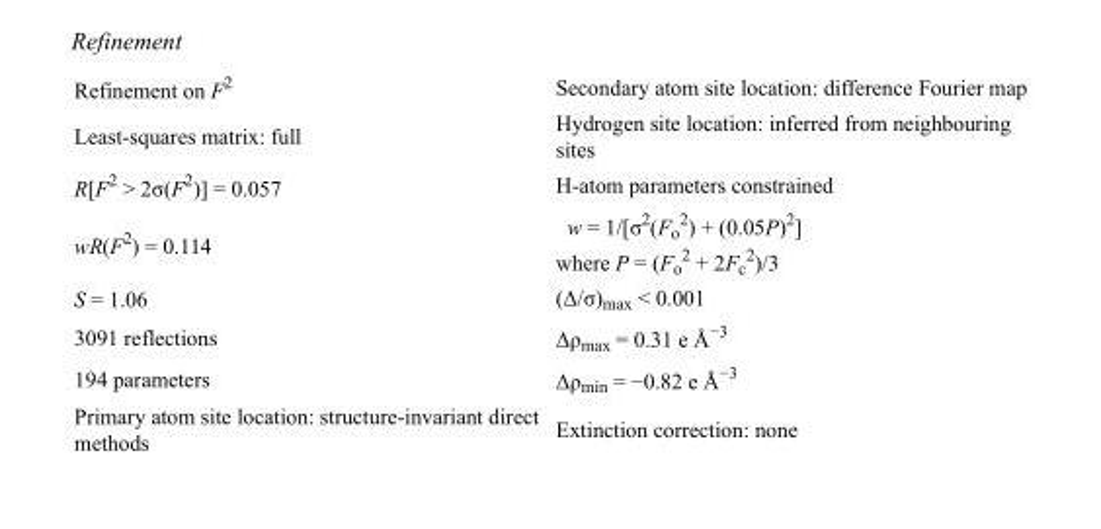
<table><tbody><tr><td>Refinement on F<sup>2</sup></td><td>Secondary atom site location: difference Fourier map</td></tr><tr><td>Least-squares matrix: full</td><td>Hydrogen site location: inferred from neighbouring sites</td></tr><tr><td>R[F<sup>2</sup> &gt; 2σ(F<sup>2</sup>)] = 0.057</td><td>H-atom parameters constrained</td></tr><tr><td>wR(F<sup>2</sup>) = 0.114</td><td>w = 1/[σ<sup>2</sup>(F<sub>o</sub> <sup>2</sup>) + (0.05P)<sup>2</sup>] where P = (F<sub>o</sub> <sup>2</sup> + 2F<sub>c</sub> <sup>2</sup>)/3</td></tr><tr><td>S = 1.06</td><td>(Δ/σ)<sub>max</sub> &lt; 0.001</td></tr><tr><td>3091 reflections</td><td>Δρ<sub>max</sub> = 0.31 e Å<sup>−3</sup></td></tr><tr><td>194 parameters</td><td>Δρ<sub>min</sub> = −0.82 e Å<sup>−3</sup></td></tr><tr><td>Primary atom site location: structure-invariant direct methods</td><td>Extinction correction: none</td></tr></tbody></table>